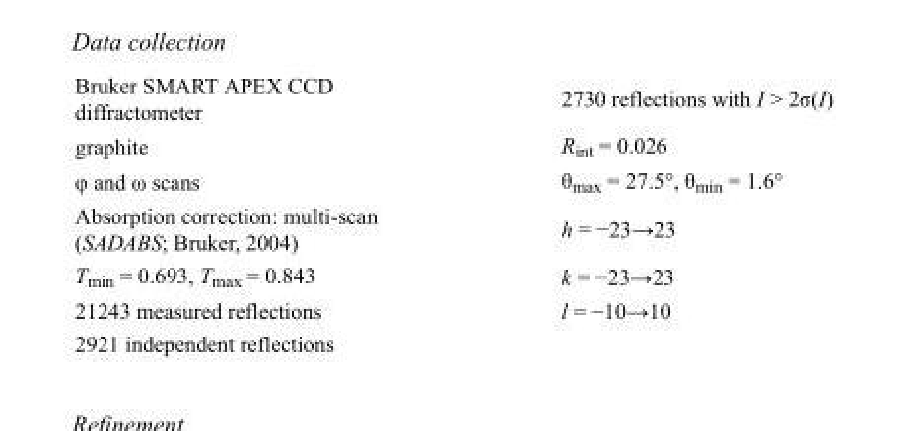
<table><tbody><tr><td>Bruker SMART APEX CCD diffractometer</td><td>2730 reflections with I &gt; 2σ(I)</td></tr><tr><td>graphite</td><td>R<sub>int</sub> = 0.026</td></tr><tr><td>φ and ω scans</td><td>θ<sub>max</sub> = 27.5°, θ<sub>min</sub> = 1.6°</td></tr><tr><td>Absorption correction: multi-scan (SADABS; Bruker, 2004)</td><td>h = −23→23</td></tr><tr><td>T<sub>min</sub> = 0.693, T<sub>max</sub> = 0.843</td><td>k = −23→23</td></tr><tr><td>21243 measured reflections</td><td>l = −10→10</td></tr><tr><td>2921 independent reflections</td><td></td></tr></tbody></table>